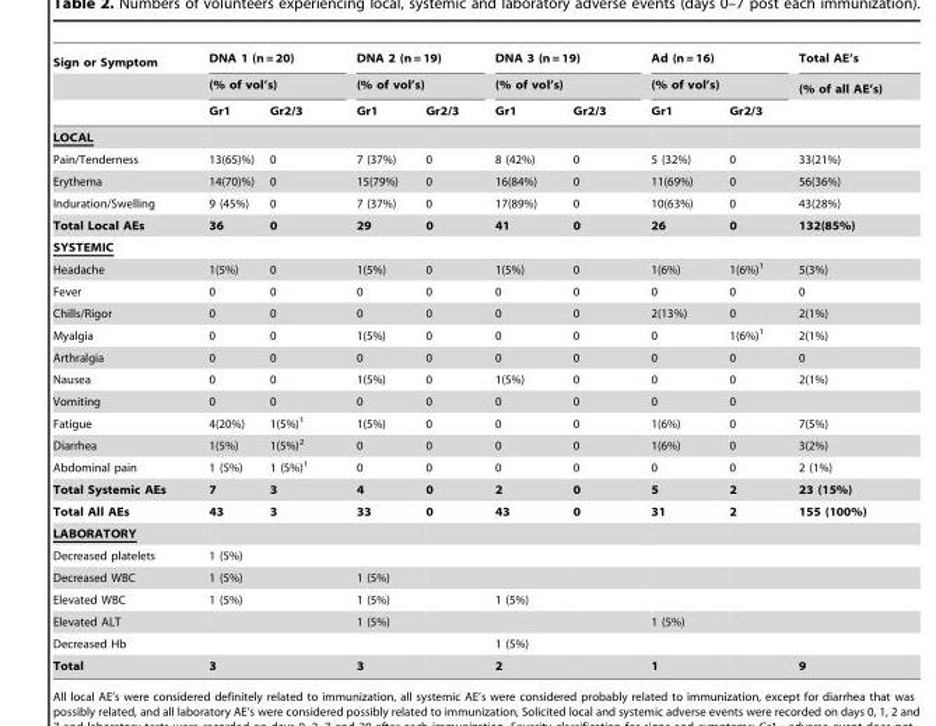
<table><thead><tr><td rowspan="3">Sign or Symptom</td><td rowspan="2" colspan="2">DNA 1 (n = 20) (% of vol’s)</td><td rowspan="2" colspan="2">DNA 2 (n = 19) (% of vol’s)</td><td rowspan="2" colspan="2">DNA 3 (n = 19) (% of vol’s)</td><td rowspan="2" colspan="2">Ad (n = 16) (% of vol’s)</td><td rowspan="3">Total AE’s (% of all AE’s)</td></tr><tr></tr><tr><td>Gr1</td><td>Gr2/3</td><td>Gr1</td><td>Gr2/3</td><td>Gr1</td><td>Gr2/3</td><td>Gr1</td><td>Gr2/3</td></tr></thead><tbody><tr><td colspan="10">LOCAL</td></tr><tr><td>Pain/Tenderness</td><td>13(65)%)</td><td>0</td><td>7 (37%)</td><td>0</td><td>8 (42%)</td><td>0</td><td>5 (32%)</td><td>0</td><td>33(21%)</td></tr><tr><td>Erythema</td><td>14(70)%)</td><td>0</td><td>15(79%)</td><td>0</td><td>16(84%)</td><td>0</td><td>11(69%)</td><td>0</td><td>56(36%)</td></tr><tr><td>Induration/Swelling</td><td>9 (45%)</td><td>0</td><td>7 (37%)</td><td>0</td><td>17(89%)</td><td>0</td><td>10(63%)</td><td>0</td><td>43(28%)</td></tr><tr><td>Total Local AEs</td><td>36</td><td>0</td><td>29</td><td>0</td><td>41</td><td>0</td><td>26</td><td>0</td><td>132(85%)</td></tr><tr><td colspan="10">SYSTEMIC</td></tr><tr><td>Headache</td><td>1(5%)</td><td>0</td><td>1(5%)</td><td>0</td><td>1(5%)</td><td>0</td><td>1(6%)</td><td>1(6%)<sup>1</sup></td><td>5(3%)</td></tr><tr><td>Fever</td><td>0</td><td>0</td><td>0</td><td>0</td><td>0</td><td>0</td><td>0</td><td>0</td><td>0</td></tr><tr><td>Chills/Rigor</td><td>0</td><td>0</td><td>0</td><td>0</td><td>0</td><td>0</td><td>2(13%)</td><td>0</td><td>2(1%)</td></tr><tr><td>Myalgia</td><td>0</td><td>0</td><td>1(5%)</td><td>0</td><td>0</td><td>0</td><td>0</td><td>1(6%)<sup>1</sup></td><td>2(1%)</td></tr><tr><td>Arthralgia</td><td>0</td><td>0</td><td>0</td><td>0</td><td>0</td><td>0</td><td>0</td><td>0</td><td>0</td></tr><tr><td>Nausea</td><td>0</td><td>0</td><td>1(5%)</td><td>0</td><td>1(5%)</td><td>0</td><td>0</td><td>0</td><td>2(1%)</td></tr><tr><td>Vomiting</td><td>0</td><td>0</td><td>0</td><td>0</td><td>0</td><td>0</td><td>0</td><td>0</td><td></td></tr><tr><td>Fatigue</td><td>4(20%)</td><td>1(5%)<sup>1</sup></td><td>1(5%)</td><td>0</td><td>0</td><td>0</td><td>1(6%)</td><td>0</td><td>7(5%)</td></tr><tr><td>Diarrhea</td><td>1(5%)</td><td>1(5%)<sup>2</sup></td><td>0</td><td>0</td><td>0</td><td>0</td><td>1(6%)</td><td>0</td><td>3(2%)</td></tr><tr><td>Abdominal pain</td><td>1 (5%)</td><td>1 (5%)<sup>1</sup></td><td>0</td><td>0</td><td>0</td><td>0</td><td>0</td><td>0</td><td>2 (1%)</td></tr><tr><td>Total Systemic AEs</td><td>7</td><td>3</td><td>4</td><td>0</td><td>2</td><td>0</td><td>5</td><td>2</td><td>23 (15%)</td></tr><tr><td>Total All AEs</td><td>43</td><td>3</td><td>33</td><td>0</td><td>43</td><td>0</td><td>31</td><td>2</td><td>155 (100%)</td></tr><tr><td colspan="10">LABORATORY</td></tr><tr><td>Decreased platelets</td><td>1 (5%)</td><td></td><td></td><td></td><td></td><td></td><td></td><td></td><td></td></tr><tr><td>Decreased WBC</td><td>1 (5%)</td><td></td><td>1 (5%)</td><td></td><td></td><td></td><td></td><td></td><td></td></tr><tr><td>Elevated WBC</td><td>1 (5%)</td><td></td><td>1 (5%)</td><td></td><td>1 (5%)</td><td></td><td></td><td></td><td></td></tr><tr><td>Elevated ALT</td><td></td><td></td><td>1 (5%)</td><td></td><td></td><td></td><td>1 (5%)</td><td></td><td></td></tr><tr><td>Decreased Hb</td><td></td><td></td><td></td><td></td><td>1 (5%)</td><td></td><td></td><td></td><td></td></tr><tr><td>Total</td><td>3</td><td></td><td>3</td><td></td><td>2</td><td></td><td>1</td><td></td><td>9</td></tr></tbody></table>